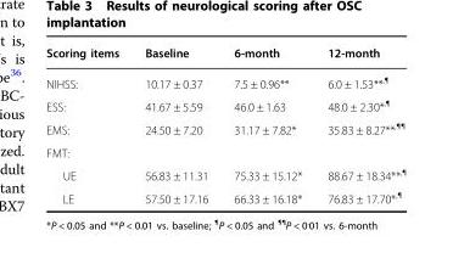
<table><thead><tr><td>Scoring items</td><td>Baseline</td><td>6-month</td><td>12-month</td></tr></thead><tbody><tr><td>NIHSS:</td><td>10.17 ± 0.37</td><td>7.5 ± 0.96**</td><td>6.0 ± 1.53**<sup>,¶</sup></td></tr><tr><td>ESS:</td><td>41.67 ± 5.59</td><td>46.0 ± 1.63</td><td>48.0 ± 2.30*<sup>,¶</sup></td></tr><tr><td>EMS:</td><td>24.50 ± 7.20</td><td>31.17 ± 7.82*</td><td>35.83 ± 8.27**<sup>,¶¶</sup></td></tr><tr><td colspan="4">FMT:</td></tr><tr><td>UE</td><td>56.83 ± 11.31</td><td>75.33 ± 15.12*</td><td>88.67 ± 18.34**<sup>,¶</sup></td></tr><tr><td>LE</td><td>57.50 ± 17.16</td><td>66.33 ± 16.18*</td><td>76.83 ± 17.70*<sup>,¶</sup></td></tr></tbody></table>